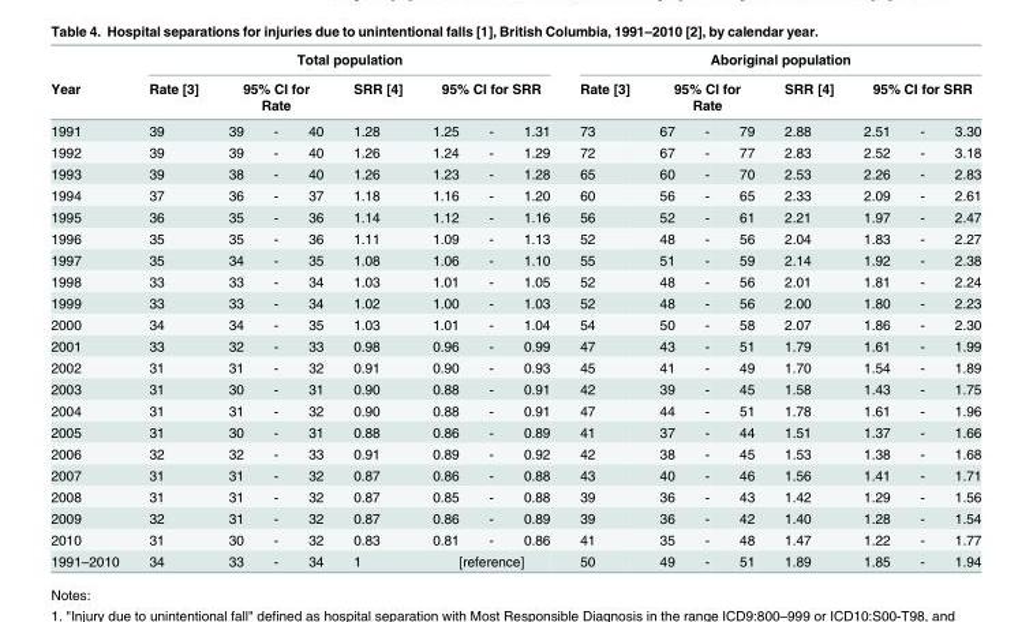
<table><thead><tr><td rowspan="3">Year 1991</td><td colspan="8">Total population</td><td colspan="8">Aboriginal population</td></tr><tr><td rowspan="2">Rate [3] 39</td><td colspan="3">95% CI for Rate</td><td rowspan="2">SRR [4] 1.28</td><td colspan="3">95% CI for SRR</td><td rowspan="2">Rate [3] 73</td><td colspan="3">95% CI for Rate</td><td rowspan="2">SRR [4] 2.88</td><td colspan="3">95% CI for SRR</td></tr><tr><td>39</td><td>-</td><td>40</td><td>1.25</td><td>-</td><td>1.31</td><td>67</td><td>-</td><td>79</td><td>2.51</td><td>-</td><td>3.30</td></tr></thead><tbody><tr><td>1992</td><td>39</td><td>39</td><td>-</td><td>40</td><td>1.26</td><td>1.24</td><td>-</td><td>1.29</td><td>72</td><td>67</td><td>-</td><td>77</td><td>2.83</td><td>2.52</td><td>-</td><td>3.18</td></tr><tr><td>1993</td><td>39</td><td>38</td><td>-</td><td>40</td><td>1.26</td><td>1.23</td><td>-</td><td>1.28</td><td>65</td><td>60</td><td>-</td><td>70</td><td>2.53</td><td>2.26</td><td>-</td><td>2.83</td></tr><tr><td>1994</td><td>37</td><td>36</td><td>-</td><td>37</td><td>1.18</td><td>1.16</td><td>-</td><td>1.20</td><td>60</td><td>56</td><td>-</td><td>65</td><td>2.33</td><td>2.09</td><td>-</td><td>2.61</td></tr><tr><td>1995</td><td>36</td><td>35</td><td>-</td><td>36</td><td>1.14</td><td>1.12</td><td>-</td><td>1.16</td><td>56</td><td>52</td><td>-</td><td>61</td><td>2.21</td><td>1.97</td><td>-</td><td>2.47</td></tr><tr><td>1996</td><td>35</td><td>35</td><td>-</td><td>36</td><td>1.11</td><td>1.09</td><td>-</td><td>1.13</td><td>52</td><td>48</td><td>-</td><td>56</td><td>2.04</td><td>1.83</td><td>-</td><td>2.27</td></tr><tr><td>1997</td><td>35</td><td>34</td><td>-</td><td>35</td><td>1.08</td><td>1.06</td><td>-</td><td>1.10</td><td>55</td><td>51</td><td>-</td><td>59</td><td>2.14</td><td>1.92</td><td>-</td><td>2.38</td></tr><tr><td>1998</td><td>33</td><td>33</td><td>-</td><td>34</td><td>1.03</td><td>1.01</td><td>-</td><td>1.05</td><td>52</td><td>48</td><td>-</td><td>56</td><td>2.01</td><td>1.81</td><td>-</td><td>2.24</td></tr><tr><td>1999</td><td>33</td><td>33</td><td>-</td><td>34</td><td>1.02</td><td>1.00</td><td>-</td><td>1.03</td><td>52</td><td>48</td><td>-</td><td>56</td><td>2.00</td><td>1.80</td><td>-</td><td>2.23</td></tr><tr><td>2000</td><td>34</td><td>34</td><td>-</td><td>35</td><td>1.03</td><td>1.01</td><td>-</td><td>1.04</td><td>54</td><td>50</td><td>-</td><td>58</td><td>2.07</td><td>1.86</td><td>-</td><td>2.30</td></tr><tr><td>2001</td><td>33</td><td>32</td><td>-</td><td>33</td><td>0.98</td><td>0.96</td><td>-</td><td>0.99</td><td>47</td><td>43</td><td>-</td><td>51</td><td>1.79</td><td>1.61</td><td>-</td><td>1.99</td></tr><tr><td>2002</td><td>31</td><td>31</td><td>-</td><td>32</td><td>0.91</td><td>0.90</td><td>-</td><td>0.93</td><td>45</td><td>41</td><td>-</td><td>49</td><td>1.70</td><td>1.54</td><td>-</td><td>1.89</td></tr><tr><td>2003</td><td>31</td><td>30</td><td>-</td><td>31</td><td>0.90</td><td>0.88</td><td>-</td><td>0.91</td><td>42</td><td>39</td><td>-</td><td>45</td><td>1.58</td><td>1.43</td><td>-</td><td>1.75</td></tr><tr><td>2004</td><td>31</td><td>31</td><td>-</td><td>32</td><td>0.90</td><td>0.88</td><td>-</td><td>0.91</td><td>47</td><td>44</td><td>-</td><td>51</td><td>1.78</td><td>1.61</td><td>-</td><td>1.96</td></tr><tr><td>2005</td><td>31</td><td>30</td><td>-</td><td>31</td><td>0.88</td><td>0.86</td><td>-</td><td>0.89</td><td>41</td><td>37</td><td>-</td><td>44</td><td>1.51</td><td>1.37</td><td>-</td><td>1.66</td></tr><tr><td>2006</td><td>32</td><td>32</td><td>-</td><td>33</td><td>0.91</td><td>0.89</td><td>-</td><td>0.92</td><td>42</td><td>38</td><td>-</td><td>45</td><td>1.53</td><td>1.38</td><td>-</td><td>1.68</td></tr><tr><td>2007</td><td>31</td><td>31</td><td>-</td><td>32</td><td>0.87</td><td>0.86</td><td>-</td><td>0.88</td><td>43</td><td>40</td><td>-</td><td>46</td><td>1.56</td><td>1.41</td><td>-</td><td>1.71</td></tr><tr><td>2008</td><td>31</td><td>31</td><td>-</td><td>32</td><td>0.87</td><td>0.85</td><td>-</td><td>0.88</td><td>39</td><td>36</td><td>-</td><td>43</td><td>1.42</td><td>1.29</td><td>-</td><td>1.56</td></tr><tr><td>2009</td><td>32</td><td>31</td><td>-</td><td>32</td><td>0.87</td><td>0.86</td><td>-</td><td>0.89</td><td>39</td><td>36</td><td>-</td><td>42</td><td>1.40</td><td>1.28</td><td>-</td><td>1.54</td></tr><tr><td>2010</td><td>31</td><td>30</td><td>-</td><td>32</td><td>0.83</td><td>0.81</td><td>-</td><td>0.86</td><td>41</td><td>35</td><td>-</td><td>48</td><td>1.47</td><td>1.22</td><td>-</td><td>1.77</td></tr><tr><td>1991–2010</td><td>34</td><td>33</td><td>-</td><td>34</td><td>1</td><td colspan="3">[reference]</td><td>50</td><td>49</td><td>-</td><td>51</td><td>1.89</td><td>1.85</td><td>-</td><td>1.94</td></tr></tbody></table>